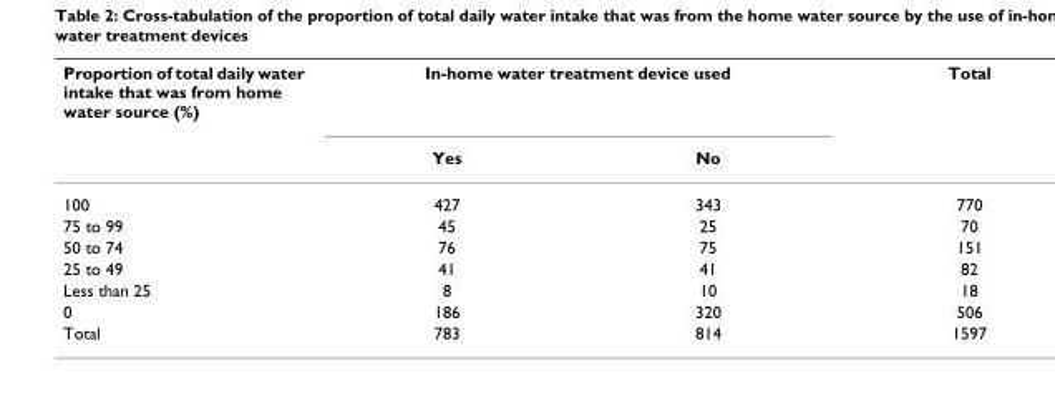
<table><thead><tr><td rowspan="2">Proportion of total daily water intake that was from home water source (%)</td><td colspan="2">In-home water treatment device used</td><td rowspan="2">Total</td></tr><tr><td>Yes</td><td>No</td></tr></thead><tbody><tr><td>100</td><td>427</td><td>343</td><td>770</td></tr><tr><td>75 to 99</td><td>45</td><td>25</td><td>70</td></tr><tr><td>50 to 74</td><td>76</td><td>75</td><td>151</td></tr><tr><td>25 to 49</td><td>41</td><td>41</td><td>82</td></tr><tr><td>Less than 25</td><td>8</td><td>10</td><td>18</td></tr><tr><td>0</td><td>186</td><td>320</td><td>506</td></tr><tr><td>Total</td><td>783</td><td>814</td><td>1597</td></tr></tbody></table>